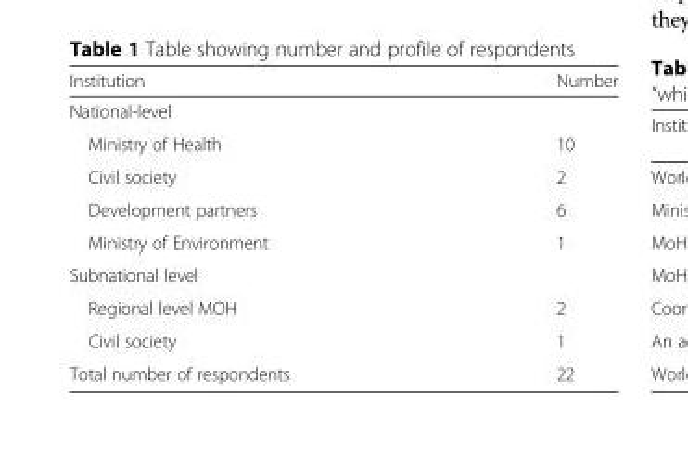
<table><thead><tr><td>Institution</td><td>Number</td></tr></thead><tbody><tr><td colspan="2">National-level</td></tr><tr><td>Ministry of Health</td><td>10</td></tr><tr><td>Civil society</td><td>2</td></tr><tr><td>Development partners</td><td>6</td></tr><tr><td>Ministry of Environment</td><td>1</td></tr><tr><td colspan="2">Subnational level</td></tr><tr><td>Regional level MOH</td><td>2</td></tr><tr><td>Civil society</td><td>1</td></tr><tr><td>Total number of respondents</td><td>22</td></tr></tbody></table>